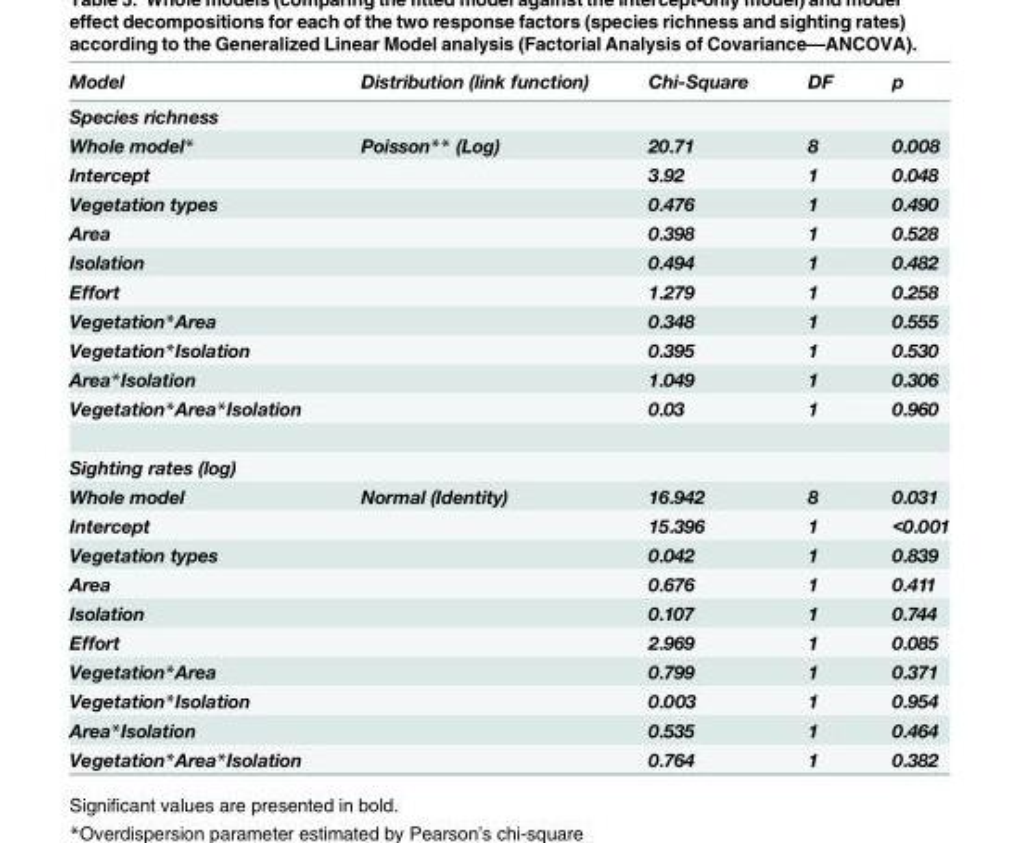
<table><thead><tr><td>Model</td><td>Distribution (link function)</td><td>Chi-Square</td><td>DF</td><td>p</td></tr></thead><tbody><tr><td colspan="5">Species richness</td></tr><tr><td>Whole model*</td><td>Poisson** (Log)</td><td>20.71</td><td>8</td><td>0.008</td></tr><tr><td>Intercept</td><td></td><td>3.92</td><td>1</td><td>0.048</td></tr><tr><td>Vegetation types</td><td></td><td>0.476</td><td>1</td><td>0.490</td></tr><tr><td>Area</td><td></td><td>0.398</td><td>1</td><td>0.528</td></tr><tr><td>Isolation</td><td></td><td>0.494</td><td>1</td><td>0.482</td></tr><tr><td>Effort</td><td></td><td>1.279</td><td>1</td><td>0.258</td></tr><tr><td>Vegetation*Area</td><td></td><td>0.348</td><td>1</td><td>0.555</td></tr><tr><td>Vegetation*Isolation</td><td></td><td>0.395</td><td>1</td><td>0.530</td></tr><tr><td>Area*Isolation</td><td></td><td>1.049</td><td>1</td><td>0.306</td></tr><tr><td>Vegetation*Area*Isolation</td><td></td><td>0.03</td><td>1</td><td>0.960</td></tr><tr><td colspan="5">Sighting rates (log)</td></tr><tr><td>Whole model</td><td>Normal (Identity)</td><td>16.942</td><td>8</td><td>0.031</td></tr><tr><td>Intercept</td><td></td><td>15.396</td><td>1</td><td>&lt;0.001</td></tr><tr><td>Vegetation types</td><td></td><td>0.042</td><td>1</td><td>0.839</td></tr><tr><td>Area</td><td></td><td>0.676</td><td>1</td><td>0.411</td></tr><tr><td>Isolation</td><td></td><td>0.107</td><td>1</td><td>0.744</td></tr><tr><td>Effort</td><td></td><td>2.969</td><td>1</td><td>0.085</td></tr><tr><td>Vegetation*Area</td><td></td><td>0.799</td><td>1</td><td>0.371</td></tr><tr><td>Vegetation*Isolation</td><td></td><td>0.003</td><td>1</td><td>0.954</td></tr><tr><td>Area*Isolation</td><td></td><td>0.535</td><td>1</td><td>0.464</td></tr><tr><td>Vegetation*Area*Isolation</td><td></td><td>0.764</td><td>1</td><td>0.382</td></tr></tbody></table>